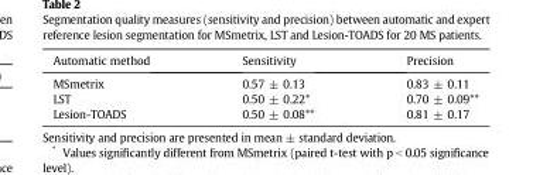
<table><thead><tr><td>Automatic method</td><td>Sensitivity</td><td>Precision</td></tr></thead><tbody><tr><td>MSmetrix</td><td>0.57 ± 0.13</td><td>0.83 ± 0.11</td></tr><tr><td>LST</td><td>0.50 ± 0.22*</td><td>0.70 ± 0.09**</td></tr><tr><td>Lesion-TOADS</td><td>0.50 ± 0.08**</td><td>0.81 ± 0.17</td></tr></tbody></table>